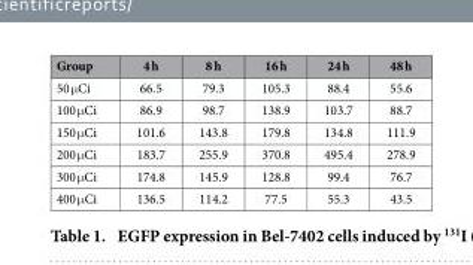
<table><thead><tr><td>Group</td><td>4 h</td><td>8 h</td><td>16 h</td><td>24 h</td><td>48 h</td></tr></thead><tbody><tr><td>50 μ Ci</td><td>66.5</td><td>79.3</td><td>105.3</td><td>88.4</td><td>55.6</td></tr><tr><td>100 μ Ci</td><td>86.9</td><td>98.7</td><td>138.9</td><td>103.7</td><td>88.7</td></tr><tr><td>150 μ Ci</td><td>101.6</td><td>143.8</td><td>179.8</td><td>134.8</td><td>111.9</td></tr><tr><td>200 μ Ci</td><td>183.7</td><td>255.9</td><td>370.8</td><td>495.4</td><td>278.9</td></tr><tr><td>300 μ Ci</td><td>174.8</td><td>145.9</td><td>128.8</td><td>99.4</td><td>76.7</td></tr><tr><td>400 μ Ci</td><td>136.5</td><td>114.2</td><td>77.5</td><td>55.3</td><td>43.5</td></tr></tbody></table>